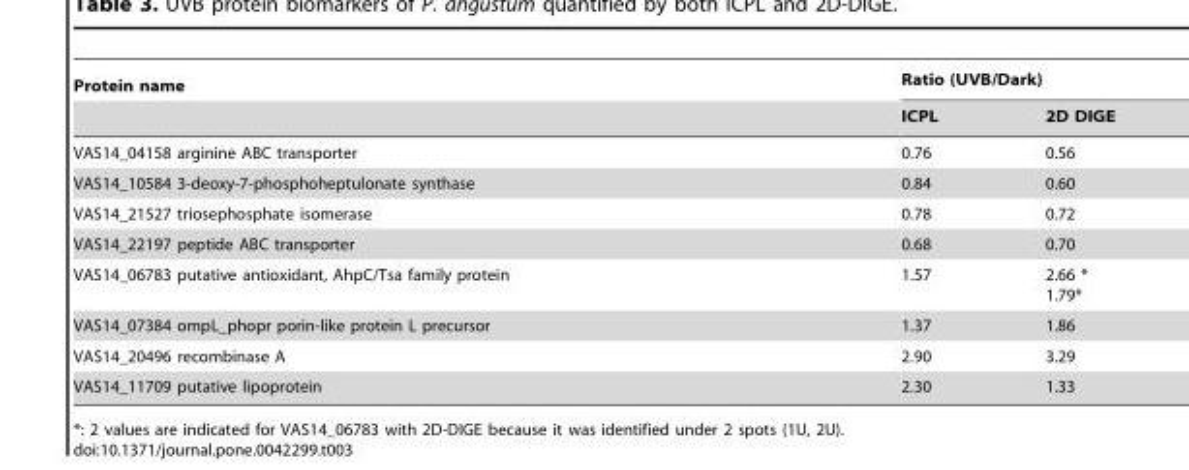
<table><thead><tr><td rowspan="2">Protein name</td><td colspan="2">Ratio (UVB/Dark)</td></tr><tr><td>ICPL</td><td>2D DIGE</td></tr></thead><tbody><tr><td>VAS14_04158 arginine ABC transporter</td><td>0.76</td><td>0.56</td></tr><tr><td>VAS14_10584 3-deoxy-7-phosphoheptulonate synthase</td><td>0.84</td><td>0.60</td></tr><tr><td>VAS14_21527 triosephosphate isomerase</td><td>0.78</td><td>0.72</td></tr><tr><td>VAS14_22197 peptide ABC transporter</td><td>0.68</td><td>0.70</td></tr><tr><td>VAS14_06783 putative antioxidant, AhpC/Tsa family protein</td><td>1.57</td><td>2.66 * 1.79*</td></tr><tr><td>VAS14_07384 ompL_phopr porin-like protein L precursor</td><td>1.37</td><td>1.86</td></tr><tr><td>VAS14_20496 recombinase A</td><td>2.90</td><td>3.29</td></tr><tr><td>VAS14_11709 putative lipoprotein</td><td>2.30</td><td>1.33</td></tr></tbody></table>